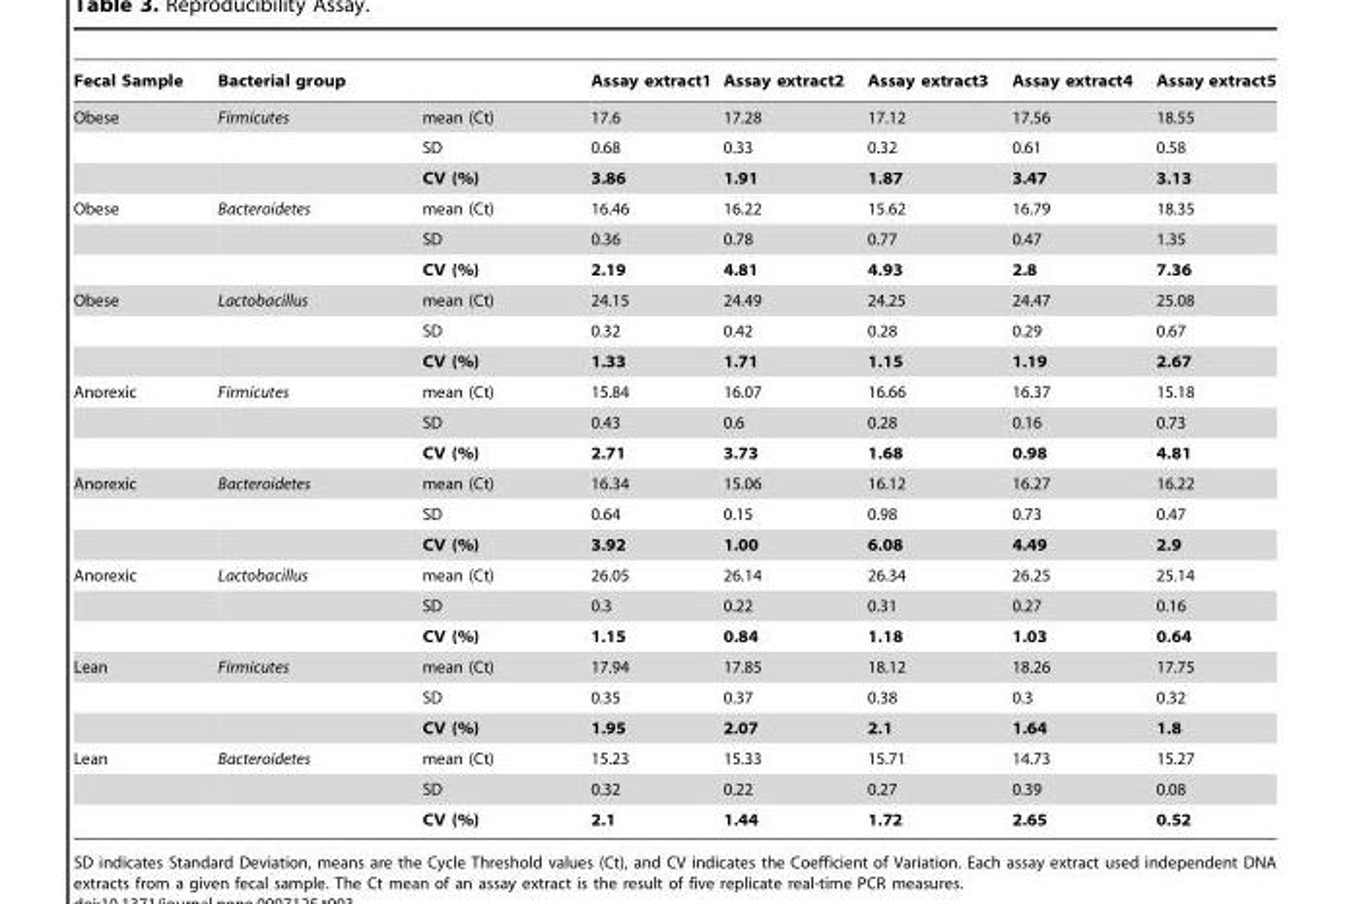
<table><thead><tr><td>Fecal Sample</td><td>Bacterial group</td><td></td><td>Assay extract1</td><td>Assay extract2</td><td>Assay extract3</td><td>Assay extract4</td><td>Assay extract5</td></tr></thead><tbody><tr><td rowspan="3">Obese</td><td>Firmicutes</td><td>mean (Ct)</td><td>17.6</td><td>17.28</td><td>17.12</td><td>17.56</td><td>18.55</td></tr><tr><td></td><td>SD</td><td>0.68</td><td>0.33</td><td>0.32</td><td>0.61</td><td>0.58</td></tr><tr><td></td><td>CV (%)</td><td>3.86</td><td>1.91</td><td>1.87</td><td>3.47</td><td>3.13</td></tr><tr><td rowspan="3">Obese</td><td>Bacteroidetes</td><td>mean (Ct)</td><td>16.46</td><td>16.22</td><td>15.62</td><td>16.79</td><td>18.35</td></tr><tr><td></td><td>SD</td><td>0.36</td><td>0.78</td><td>0.77</td><td>0.47</td><td>1.35</td></tr><tr><td></td><td>CV (%)</td><td>2.19</td><td>4.81</td><td>4.93</td><td>2.8</td><td>7.36</td></tr><tr><td rowspan="3">Obese</td><td>Lactobacillus</td><td>mean (Ct)</td><td>24.15</td><td>24.49</td><td>24.25</td><td>24.47</td><td>25.08</td></tr><tr><td></td><td>SD</td><td>0.32</td><td>0.42</td><td>0.28</td><td>0.29</td><td>0.67</td></tr><tr><td></td><td>CV (%)</td><td>1.33</td><td>1.71</td><td>1.15</td><td>1.19</td><td>2.67</td></tr><tr><td rowspan="3">Anorexic</td><td>Firmicutes</td><td>mean (Ct)</td><td>15.84</td><td>16.07</td><td>16.66</td><td>16.37</td><td>15.18</td></tr><tr><td></td><td>SD</td><td>0.43</td><td>0.6</td><td>0.28</td><td>0.16</td><td>0.73</td></tr><tr><td></td><td>CV (%)</td><td>2.71</td><td>3.73</td><td>1.68</td><td>0.98</td><td>4.81</td></tr><tr><td rowspan="3">Anorexic</td><td>Bacteroidetes</td><td>mean (Ct)</td><td>16.34</td><td>15.06</td><td>16.12</td><td>16.27</td><td>16.22</td></tr><tr><td></td><td>SD</td><td>0.64</td><td>0.15</td><td>0.98</td><td>0.73</td><td>0.47</td></tr><tr><td></td><td>CV (%)</td><td>3.92</td><td>1.00</td><td>6.08</td><td>4.49</td><td>2.9</td></tr><tr><td rowspan="3">Anorexic</td><td>Lactobacillus</td><td>mean (Ct)</td><td>26.05</td><td>26.14</td><td>26.34</td><td>26.25</td><td>25.14</td></tr><tr><td></td><td>SD</td><td>0.3</td><td>0.22</td><td>0.31</td><td>0.27</td><td>0.16</td></tr><tr><td></td><td>CV (%)</td><td>1.15</td><td>0.84</td><td>1.18</td><td>1.03</td><td>0.64</td></tr><tr><td rowspan="3">Lean</td><td>Firmicutes</td><td>mean (Ct)</td><td>17.94</td><td>17.85</td><td>18.12</td><td>18.26</td><td>17.75</td></tr><tr><td></td><td>SD</td><td>0.35</td><td>0.37</td><td>0.38</td><td>0.3</td><td>0.32</td></tr><tr><td></td><td>CV (%)</td><td>1.95</td><td>2.07</td><td>2.1</td><td>1.64</td><td>1.8</td></tr><tr><td rowspan="3">Lean</td><td>Bacteroidetes</td><td>mean (Ct)</td><td>15.23</td><td>15.33</td><td>15.71</td><td>14.73</td><td>15.27</td></tr><tr><td></td><td>SD</td><td>0.32</td><td>0.22</td><td>0.27</td><td>0.39</td><td>0.08</td></tr><tr><td></td><td>CV (%)</td><td>2.1</td><td>1.44</td><td>1.72</td><td>2.65</td><td>0.52</td></tr></tbody></table>